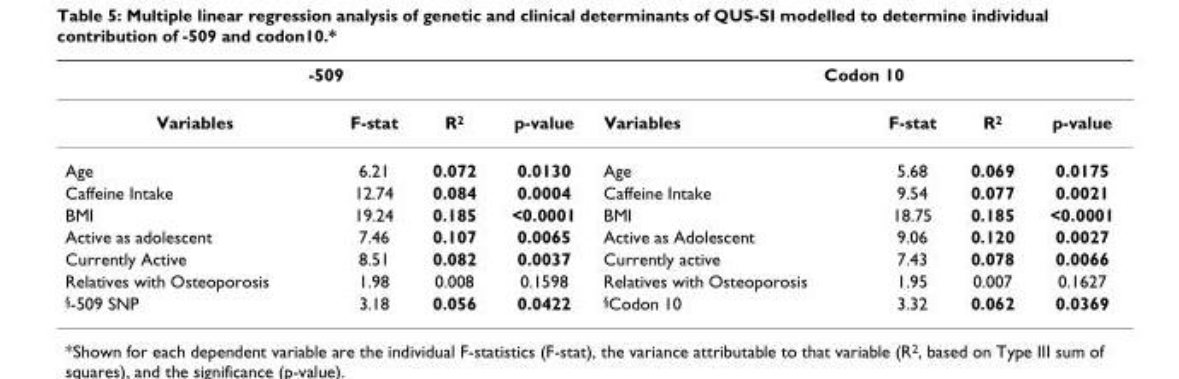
<table><thead><tr><td colspan="4">-509</td><td colspan="4">Codon 10</td></tr><tr><td>Variables</td><td>F-stat</td><td>R<sup>2</sup></td><td>p-value</td><td>Variables</td><td>F-stat</td><td>R<sup>2</sup></td><td>p-value</td></tr></thead><tbody><tr><td>Age</td><td>6.21</td><td>0.072</td><td>0.0130</td><td>Age</td><td>5.68</td><td>0.069</td><td>0.0175</td></tr><tr><td>Caffeine Intake</td><td>12.74</td><td>0.084</td><td>0.0004</td><td>Caffeine Intake</td><td>9.54</td><td>0.077</td><td>0.0021</td></tr><tr><td>BMI</td><td>19.24</td><td>0.185</td><td>&lt;0.0001</td><td>BMI</td><td>18.75</td><td>0.185</td><td>&lt;0.0001</td></tr><tr><td>Active as adolescent</td><td>7.46</td><td>0.107</td><td>0.0065</td><td>Active as Adolescent</td><td>9.06</td><td>0.120</td><td>0.0027</td></tr><tr><td>Currently Active</td><td>8.51</td><td>0.082</td><td>0.0037</td><td>Currently active</td><td>7.43</td><td>0.078</td><td>0.0066</td></tr><tr><td>Relatives with Osteoporosis</td><td>1.98</td><td>0.008</td><td>0.1598</td><td>Relatives with Osteoporosis</td><td>1.95</td><td>0.007</td><td>0.1627</td></tr><tr><td><sup>§</sup>-509 SNP</td><td>3.18</td><td>0.056</td><td>0.0422</td><td><sup>§</sup>Codon 10</td><td>3.32</td><td>0.062</td><td>0.0369</td></tr></tbody></table>